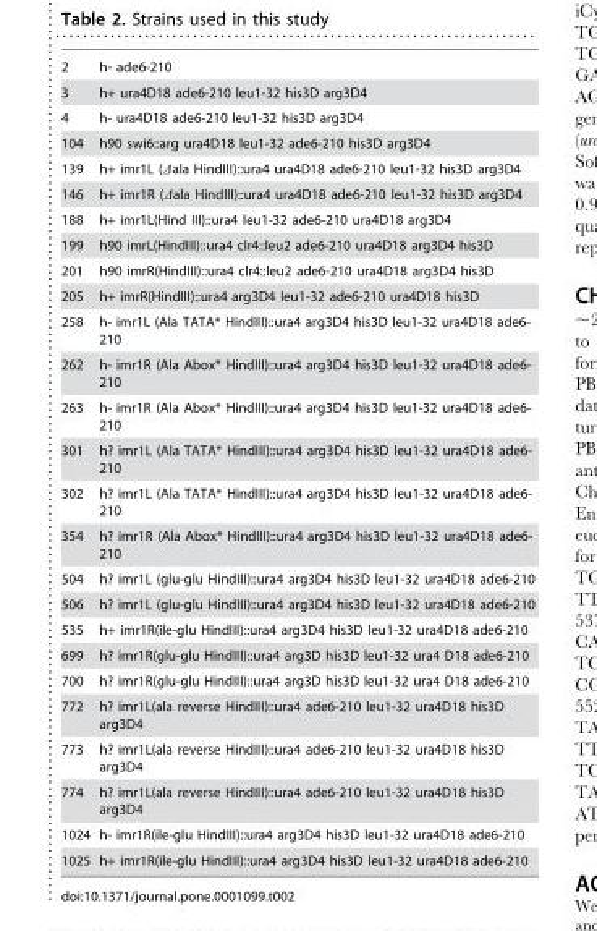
<table><tbody><tr><td>2</td><td>h- ade6-210</td></tr><tr><td>3</td><td>h+ ura4D18 ade6-210 leu1-32 his3D arg3D4</td></tr><tr><td>4</td><td>h- ura4D18 ade6-210 leu1-32 his3D arg3D4</td></tr><tr><td>104</td><td>h90 swi6::arg ura4D18 leu1-32 ade6-210 his3D arg3D4</td></tr><tr><td>139</td><td>h+ imr1L (Δala HindIII)::ura4 ura4D18 ade6-210 leu1-32 his3D arg3D4</td></tr><tr><td>146</td><td>h+ imr1R (Δala HindIII)::ura4 ura4D18 ade6-210 leu1-32 his3D arg3D4</td></tr><tr><td>188</td><td>h+ imr1L(Hind III)::ura4 leu1-32 ade6-210 ura4D18 arg3D4</td></tr><tr><td>199</td><td>h90 imrL(HindIII)::ura4 clr4::leu2 ade6-210 ura4D18 arg3D4 his3D</td></tr><tr><td>201</td><td>h90 imrR(HindIII)::ura4 clr4::leu2 ade6-210 ura4D18 arg3D4 his3D</td></tr><tr><td>205</td><td>h+ imrR(HindIII)::ura4 arg3D4 leu1-32 ade6-210 ura4D18 his3D</td></tr><tr><td>258</td><td>h- imr1L (Ala TATA* HindIII)::ura4 arg3D4 his3D leu1-32 ura4D18 ade6- 210</td></tr><tr><td>262</td><td>h- imr1R (Ala Abox* HindIII)::ura4 arg3D4 his3D leu1-32 ura4D18 ade6- 210</td></tr><tr><td>263</td><td>h- imr1R (Ala Abox* HindIII)::ura4 arg3D4 his3D leu1-32 ura4D18 ade6- 210</td></tr><tr><td>301</td><td>h? imr1L (Ala TATA* HindIII)::ura4 arg3D4 his3D leu1-32 ura4D18 ade6- 210</td></tr><tr><td>302</td><td>h? imr1L (Ala TATA* HindIII)::ura4 arg3D4 his3D leu1-32 ura4D18 ade6- 210</td></tr><tr><td>354</td><td>h? imr1R (Ala Abox* HindIII)::ura4 arg3D4 his3D leu1-32 ura4D18 ade6- 210</td></tr><tr><td>504</td><td>h? imr1L (glu-glu HindIII)::ura4 arg3D4 his3D leu1-32 ura4D18 ade6-210</td></tr><tr><td>506</td><td>h? imr1L (glu-glu HindIII)::ura4 arg3D4 his3D leu1-32 ura4D18 ade6-210</td></tr><tr><td>535</td><td>h+ imr1R(ile-glu HindIII)::ura4 arg3D4 his3D leu1-32 ura4D18 ade6-210</td></tr><tr><td>699</td><td>h? imr1R(glu-glu HindIII)::ura4 arg3D his3D leu1-32 ura4 D18 ade6-210</td></tr><tr><td>700</td><td>h? imr1R(glu-glu HindIII)::ura4 arg3D his3D leu1-32 ura4 D18 ade6-210</td></tr><tr><td>772</td><td>h? imr1L(ala reverse HindIII)::ura4 ade6-210 leu1-32 ura4D18 his3D arg3D4</td></tr><tr><td>773</td><td>h? imr1L(ala reverse HindIII)::ura4 ade6-210 leu1-32 ura4D18 his3D arg3D4</td></tr><tr><td>774</td><td>h? imr1L(ala reverse HindIII)::ura4 ade6-210 leu1-32 ura4D18 his3D arg3D4</td></tr><tr><td>1024</td><td>h- imr1R(ile-glu HindIII)::ura4 arg3D4 his3D leu1-32 ura4D18 ade6-210</td></tr><tr><td>1025</td><td>h+ imr1R(ile-glu HindIII)::ura4 arg3D4 his3D leu1-32 ura4D18 ade6-210</td></tr></tbody></table>